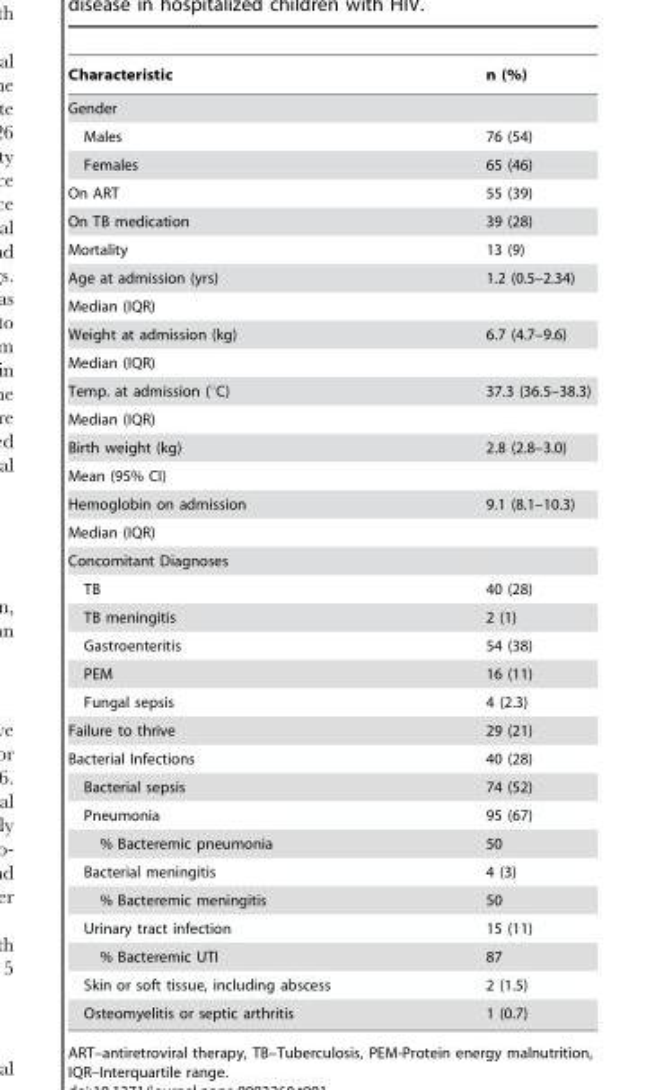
<table><thead><tr><td>Characteristic</td><td>n (%)</td></tr></thead><tbody><tr><td colspan="2">Gender</td></tr><tr><td>Males</td><td>76 (54)</td></tr><tr><td>Females</td><td>65 (46)</td></tr><tr><td>On ART</td><td>55 (39)</td></tr><tr><td>On TB medication</td><td>39 (28)</td></tr><tr><td>Mortality</td><td>13 (9)</td></tr><tr><td>Age at admission (yrs)</td><td>1.2 (0.5–2.34)</td></tr><tr><td colspan="2">Median (IQR)</td></tr><tr><td>Weight at admission (kg)</td><td>6.7 (4.7–9.6)</td></tr><tr><td colspan="2">Median (IQR)</td></tr><tr><td>Temp. at admission (°C)</td><td>37.3 (36.5–38.3)</td></tr><tr><td colspan="2">Median (IQR)</td></tr><tr><td>Birth weight (kg)</td><td>2.8 (2.8–3.0)</td></tr><tr><td colspan="2">Mean (95% CI)</td></tr><tr><td>Hemoglobin on admission</td><td>9.1 (8.1–10.3)</td></tr><tr><td colspan="2">Median (IQR)</td></tr><tr><td colspan="2">Concomitant Diagnoses</td></tr><tr><td>TB</td><td>40 (28)</td></tr><tr><td>TB meningitis</td><td>2 (1)</td></tr><tr><td>Gastroenteritis</td><td>54 (38)</td></tr><tr><td>PEM</td><td>16 (11)</td></tr><tr><td>Fungal sepsis</td><td>4 (2.3)</td></tr><tr><td>Failure to thrive</td><td>29 (21)</td></tr><tr><td>Bacterial Infections</td><td>40 (28)</td></tr><tr><td>Bacterial sepsis</td><td>74 (52)</td></tr><tr><td>Pneumonia</td><td>95 (67)</td></tr><tr><td>% Bacteremic pneumonia</td><td>50</td></tr><tr><td>Bacterial meningitis</td><td>4 (3)</td></tr><tr><td>% Bacteremic meningitis</td><td>50</td></tr><tr><td>Urinary tract infection</td><td>15 (11)</td></tr><tr><td>% Bacteremic UTI</td><td>87</td></tr><tr><td>Skin or soft tissue, including abscess</td><td>2 (1.5)</td></tr><tr><td>Osteomyelitis or septic arthritis</td><td>1 (0.7)</td></tr></tbody></table>